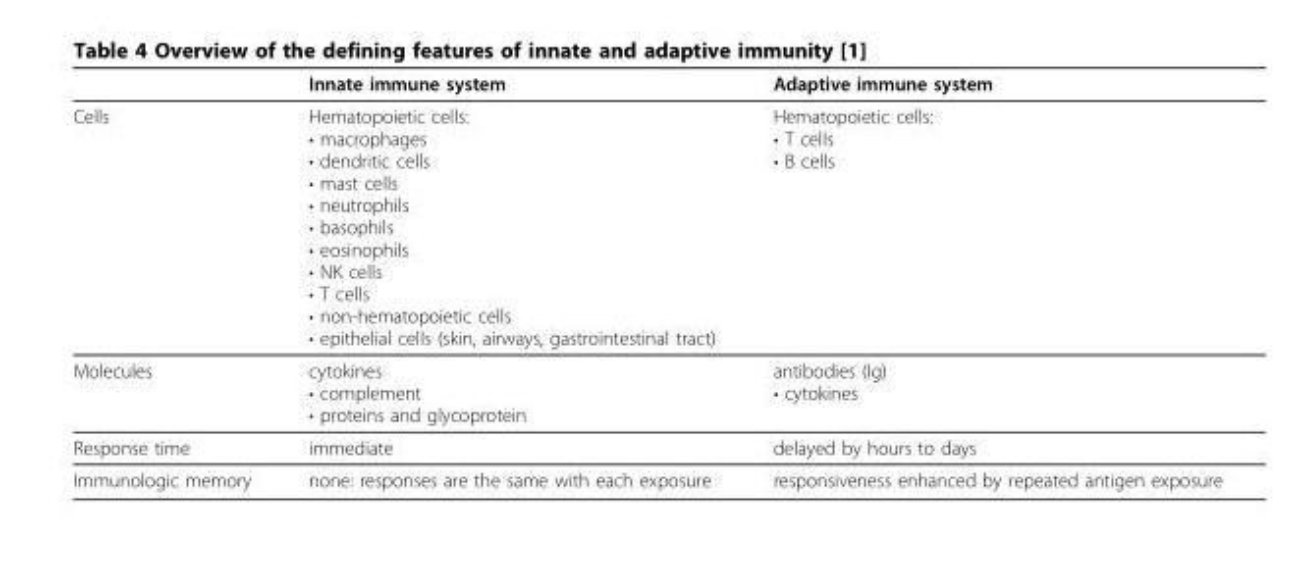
<table><thead><tr><td></td><td>Innate immune system</td><td>Adaptive immune system</td></tr></thead><tbody><tr><td>Cells</td><td>Hematopoietic cells: • macrophages • dendritic cells • mast cells • neutrophils • basophils • eosinophils • NK cells • T cells • non-hematopoietic cells • epithelial cells (skin, airways, gastrointestinal tract)</td><td>Hematopoietic cells: • T cells • B cells</td></tr><tr><td>Molecules</td><td>cytokines • complement • proteins and glycoprotein</td><td>antibodies (Ig) • cytokines</td></tr><tr><td>Response time</td><td>immediate</td><td>delayed by hours to days</td></tr><tr><td>Immunologic memory</td><td>none: responses are the same with each exposure</td><td>responsiveness enhanced by repeated antigen exposure</td></tr></tbody></table>